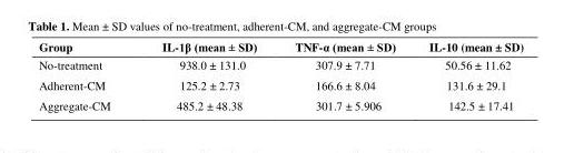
<table><thead><tr><td>Group</td><td>IL-1β (mean ± SD)</td><td>TNF-α (mean ± SD)</td><td>IL-10 (mean ± SD)</td></tr></thead><tbody><tr><td>No-treatment</td><td>938.0 ± 131.0</td><td>307.9 ± 7.71</td><td>50.56 ± 11.62</td></tr><tr><td>Adherent-CM</td><td>125.2 ± 2.73</td><td>166.6 ± 8.04</td><td>131.6 ± 29.1</td></tr><tr><td>Aggregate-CM</td><td>485.2 ± 48.38</td><td>301.7 ± 5.906</td><td>142.5 ± 17.41</td></tr></tbody></table>